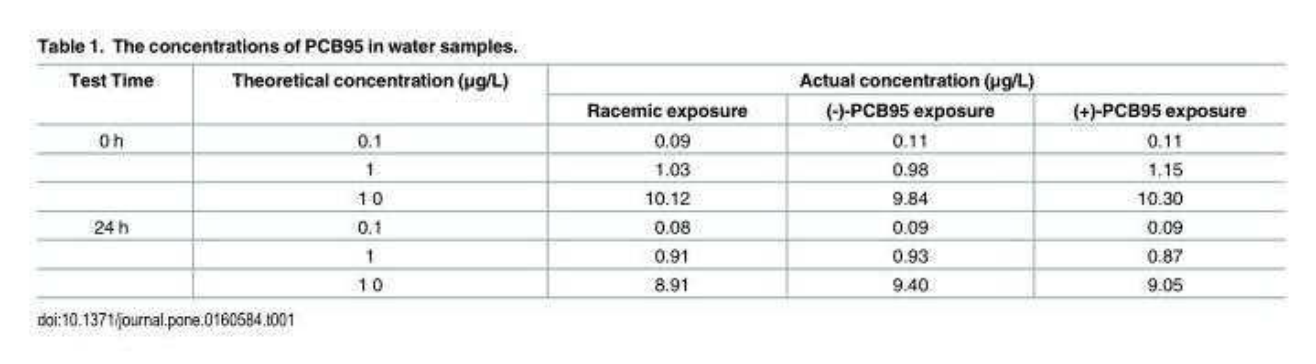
<table><thead><tr><td rowspan="2">Test Time</td><td rowspan="2">Theoretical concentration (μg/L)</td><td colspan="3">Actual concentration (μg/L)</td></tr><tr><td>Racemic exposure</td><td>(-)-PCB95 exposure</td><td>(+)-PCB95 exposure</td></tr></thead><tbody><tr><td rowspan="3">0 h</td><td>0.1</td><td>0.09</td><td>0.11</td><td>0.11</td></tr><tr><td>1</td><td>1.03</td><td>0.98</td><td>1.15</td></tr><tr><td>1 0</td><td>10.12</td><td>9.84</td><td>10.30</td></tr><tr><td rowspan="3">24 h</td><td>0.1</td><td>0.08</td><td>0.09</td><td>0.09</td></tr><tr><td>1</td><td>0.91</td><td>0.93</td><td>0.87</td></tr><tr><td>1 0</td><td>8.91</td><td>9.40</td><td>9.05</td></tr></tbody></table>